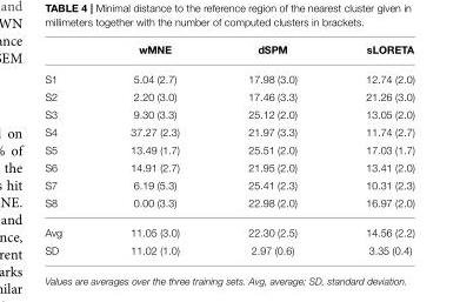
<table><thead><tr><td></td><td>wMNE</td><td>dSPM</td><td>sLORETA</td></tr></thead><tbody><tr><td>S1</td><td>5.04 (2.7)</td><td>17.98 (3.0)</td><td>12.74 (2.0)</td></tr><tr><td>S2</td><td>2.20 (3.0)</td><td>17.46 (3.3)</td><td>21.26 (3.0)</td></tr><tr><td>S3</td><td>9.30 (3.3)</td><td>25.12 (2.0)</td><td>13.05 (2.0)</td></tr><tr><td>S4</td><td>37.27 (2.3)</td><td>21.97 (3.3)</td><td>11.74 (2.7)</td></tr><tr><td>S5</td><td>13.49 (1.7)</td><td>25.51 (2.0)</td><td>17.03 (1.7)</td></tr><tr><td>S6</td><td>14.91 (2.7)</td><td>21.95 (2.0)</td><td>13.41 (2.0)</td></tr><tr><td>S7</td><td>6.19 (5.3)</td><td>25.41 (2.3)</td><td>10.31 (2.3)</td></tr><tr><td>S8</td><td>0.00 (3.3)</td><td>22.98 (2.0)</td><td>16.97 (2.0)</td></tr><tr><td>Avg</td><td>11.05 (3.0)</td><td>22.30 (2.5)</td><td>14.56 (2.2)</td></tr><tr><td>SD</td><td>11.02 (1.0)</td><td>2.97 (0.6)</td><td>3.35 (0.4)</td></tr></tbody></table>